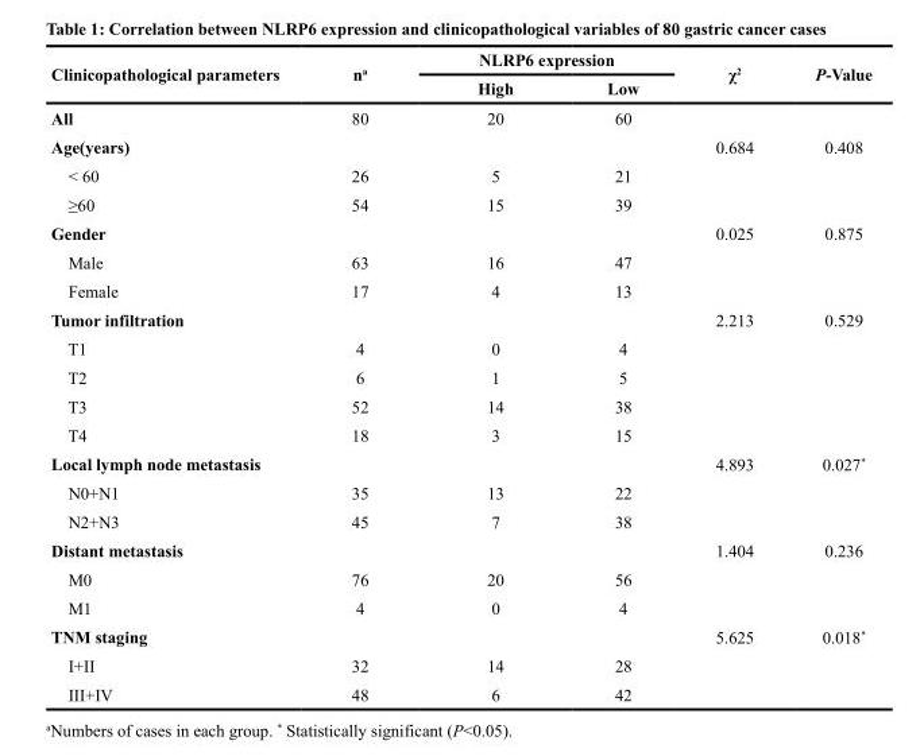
<table><thead><tr><td rowspan="2">Clinicopathological parameters</td><td rowspan="2">n<sup>a</sup></td><td colspan="2">NLRP6 expression</td><td rowspan="2">χ<sup>2</sup></td><td rowspan="2">P-Value</td></tr><tr><td>High</td><td>Low</td></tr></thead><tbody><tr><td>All</td><td>80</td><td>20</td><td>60</td><td></td><td></td></tr><tr><td>Age(years)</td><td></td><td></td><td></td><td>0.684</td><td>0.408</td></tr><tr><td>&lt; 60</td><td>26</td><td>5</td><td>21</td><td></td><td></td></tr><tr><td>≥60</td><td>54</td><td>15</td><td>39</td><td></td><td></td></tr><tr><td>Gender</td><td></td><td></td><td></td><td>0.025</td><td>0.875</td></tr><tr><td>Male</td><td>63</td><td>16</td><td>47</td><td></td><td></td></tr><tr><td>Female</td><td>17</td><td>4</td><td>13</td><td></td><td></td></tr><tr><td>Tumor infiltration</td><td></td><td></td><td></td><td>2.213</td><td>0.529</td></tr><tr><td>T1</td><td>4</td><td>0</td><td>4</td><td></td><td></td></tr><tr><td>T2</td><td>6</td><td>1</td><td>5</td><td></td><td></td></tr><tr><td>T3</td><td>52</td><td>14</td><td>38</td><td></td><td></td></tr><tr><td>T4</td><td>18</td><td>3</td><td>15</td><td></td><td></td></tr><tr><td>Local lymph node metastasis</td><td></td><td></td><td></td><td>4.893</td><td>0.027*</td></tr><tr><td>N0+N1</td><td>35</td><td>13</td><td>22</td><td></td><td></td></tr><tr><td>N2+N3</td><td>45</td><td>7</td><td>38</td><td></td><td></td></tr><tr><td>Distant metastasis</td><td></td><td></td><td></td><td>1.404</td><td>0.236</td></tr><tr><td>M0</td><td>76</td><td>20</td><td>56</td><td></td><td></td></tr><tr><td>M1</td><td>4</td><td>0</td><td>4</td><td></td><td></td></tr><tr><td>TNM staging</td><td></td><td></td><td></td><td>5.625</td><td>0.018*</td></tr><tr><td>I+II</td><td>32</td><td>14</td><td>28</td><td></td><td></td></tr><tr><td>III+IV</td><td>48</td><td>6</td><td>42</td><td></td><td></td></tr></tbody></table>